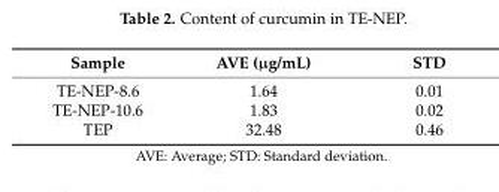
<table><thead><tr><td>Sample</td><td>AVE (µg/mL)</td><td>STD</td></tr></thead><tbody><tr><td>TE-NEP-8.6</td><td>1.64</td><td>0.01</td></tr><tr><td>TE-NEP-10.6</td><td>1.83</td><td>0.02</td></tr><tr><td>TEP</td><td>32.48</td><td>0.46</td></tr></tbody></table>